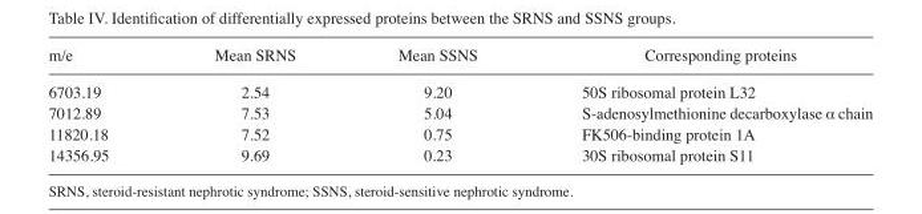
<table><thead><tr><td>m/e</td><td>Mean SRNS</td><td>Mean SSNS</td><td>Corresponding proteins</td></tr></thead><tbody><tr><td>6703.19</td><td>2.54</td><td>9.20</td><td>50S ribosomal protein L32</td></tr><tr><td>7012.89</td><td>7.53</td><td>5.04</td><td>S-adenosylmethionine decarboxylase α chain</td></tr><tr><td>11820.18</td><td>7.52</td><td>0.75</td><td>FK506-binding protein 1A</td></tr><tr><td>14356.95</td><td>9.69</td><td>0.23</td><td>30S ribosomal protein S11</td></tr></tbody></table>